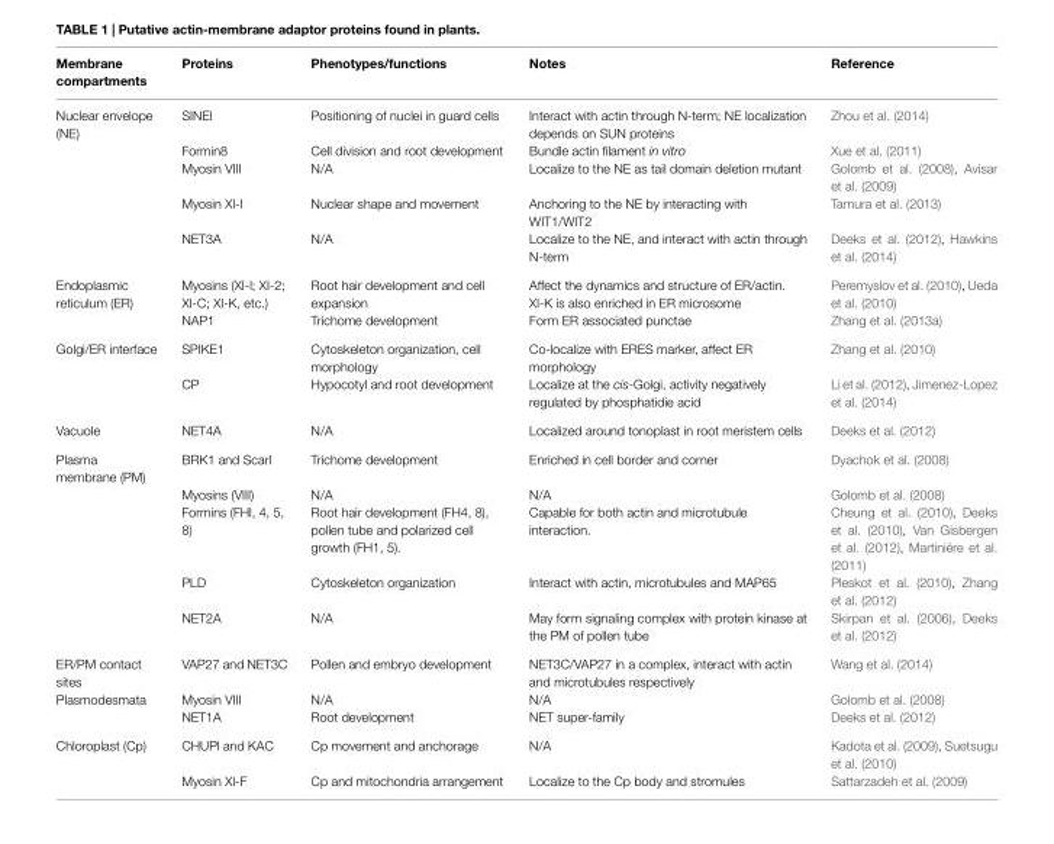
<table><thead><tr><td>Membrane compartments</td><td>Proteins</td><td>Phenotypes/functions</td><td>Notes</td><td>Reference</td></tr></thead><tbody><tr><td rowspan="5">Nuclear envelope (NE)</td><td>SINEl</td><td>Positioning of nuclei in guard cells</td><td>Interact with actin through N-term; NE localization depends on SUN proteins</td><td>Zhou et al. (2014)</td></tr><tr><td>Formin8</td><td>Cell division and root development</td><td>Bundle actin filament in vitro</td><td>Xue et al. (2011)</td></tr><tr><td>Myosin VIII</td><td>N/A</td><td>Localize to the NE as tail domain deletion mutant</td><td>Golomb et al. (2008), Avisar et al. (2009)</td></tr><tr><td>Myosin Xl-I</td><td>Nuclear shape and movement</td><td>Anchoring to the NE by interacting with WIT1/WIT2</td><td>Tamura et al. (2013)</td></tr><tr><td>NET3A</td><td>N/A</td><td>Localize to the NE, and interact with actin through N-term</td><td>Deeks et al. (2012), Hawkins et al. (2014)</td></tr><tr><td rowspan="2">Endoplasmic reticulum (ER)</td><td>Myosins (XI-l; XI-2; XI-C; XI-K, etc.)</td><td>Root hair development and cell expansion</td><td>Affect the dynamics and structure of ER/actin. Xl-K is also enriched in ER microsome</td><td>Peremyslov et al. (2010), Ueda et al. (2010)</td></tr><tr><td>NAP1</td><td>Trichome development</td><td>Form ER associated punctae</td><td>Zhang et al. (2013a)</td></tr><tr><td rowspan="2">Golgi/ER interface</td><td>SPIKE1</td><td>Cytoskeleton organization, cell morphology</td><td>Co-localize with ERES marker, affect ER morphology</td><td>Zhang et al. (2010)</td></tr><tr><td>CP</td><td>Hypocotyl and root development</td><td>Localize at the cis-Golgi, activity negatively regulated by phosphatidie acid</td><td>Li et al. (2012), Jimenez-Lopez et al. (2014)</td></tr><tr><td>Vacuole</td><td>NET4A</td><td>N/A</td><td>Localized around tonoplast in root meristem cells</td><td>Deeks et al. (2012)</td></tr><tr><td rowspan="5">Plasma membrane (PM)</td><td>BRK1 and Scarl</td><td>Trichome development</td><td>Enriched in cell border and corner</td><td>Dyachok et al. (2008)</td></tr><tr><td>Myosins (VIII)</td><td>N/A</td><td>N/A</td><td>Golomb et al. (2008)</td></tr><tr><td>Formins (FHl, 4, 5, 8)</td><td>Root hair development (FH4, 8), pollen tube and polarized cell growth (FH1, 5).</td><td>Capable for both actin and microtubule interaction.</td><td>Cheung et al. (2010), Deeks et al. (2010), Van Gisbergen et al. (2012), Martiniére et al. (2011)</td></tr><tr><td>PLD</td><td>Cytoskeleton organization</td><td>Interact with actin, microtubules and MAP65</td><td>Pleskot et al. (2010), Zhang et al. (2012)</td></tr><tr><td>NET2A</td><td>N/A</td><td>May form signaling complex with protein kinase at the PM of pollen tube</td><td>Skirpan et al. (2006), Deeks et al. (2012)</td></tr><tr><td>ER/PM contact sites</td><td>VAP27 and NET3C</td><td>Pollen and embryo development</td><td>NET3C/VAP27 in a complex, interact with actin and microtubules respectively</td><td>Wang et al. (2014)</td></tr><tr><td rowspan="2">Plasmodesmata</td><td>Myosin VIII</td><td>N/A</td><td>N/A</td><td>Golomb et al. (2008)</td></tr><tr><td>NET1A</td><td>Root development</td><td>NET super-family</td><td>Deeks et al. (2012)</td></tr><tr><td rowspan="2">Chloroplast (Cp)</td><td>CHUPl and KAC</td><td>Cp movement and anchorage</td><td>N/A</td><td>Kadota et al. (2009), Suetsugu et al. (2010)</td></tr><tr><td>Myosin Xl-F</td><td>Cp and mitochondria arrangement</td><td>Localize to the Cp body and stromules</td><td>Sattarzadeh et al. (2009)</td></tr></tbody></table>